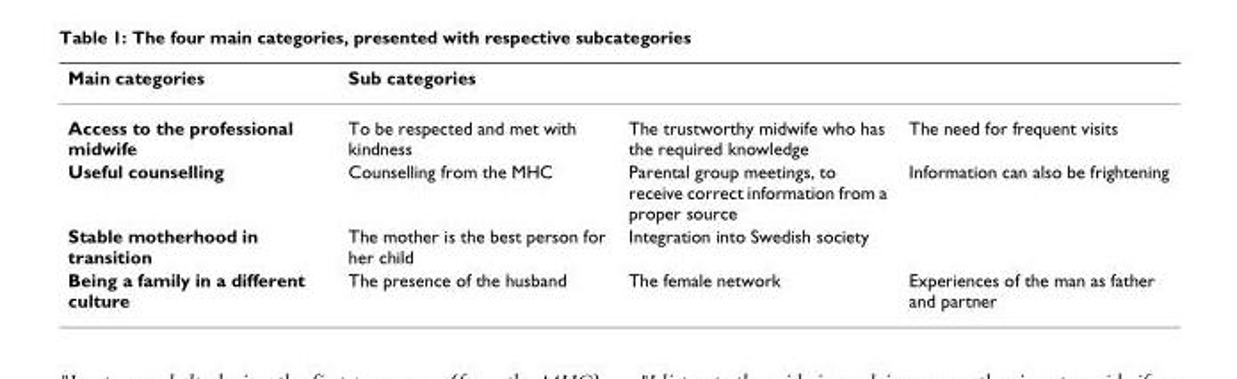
<table><thead><tr><td>Main categories</td><td>Sub categories</td><td></td><td></td></tr></thead><tbody><tr><td>Access to the professional midwife</td><td>To be respected and met with kindness</td><td>The trustworthy midwife who has the required knowledge</td><td>The need for frequent visits</td></tr><tr><td>Useful counselling</td><td>Counselling from the MHC</td><td>Parental group meetings, to receive correct information from a proper source</td><td>Information can also be frightening</td></tr><tr><td>Stable motherhood in transition</td><td>The mother is the best person for her child</td><td>Integration into Swedish society</td><td></td></tr><tr><td>Being a family in a different culture</td><td>The presence of the husband</td><td>The female network</td><td>Experiences of the man as father and partner</td></tr></tbody></table>